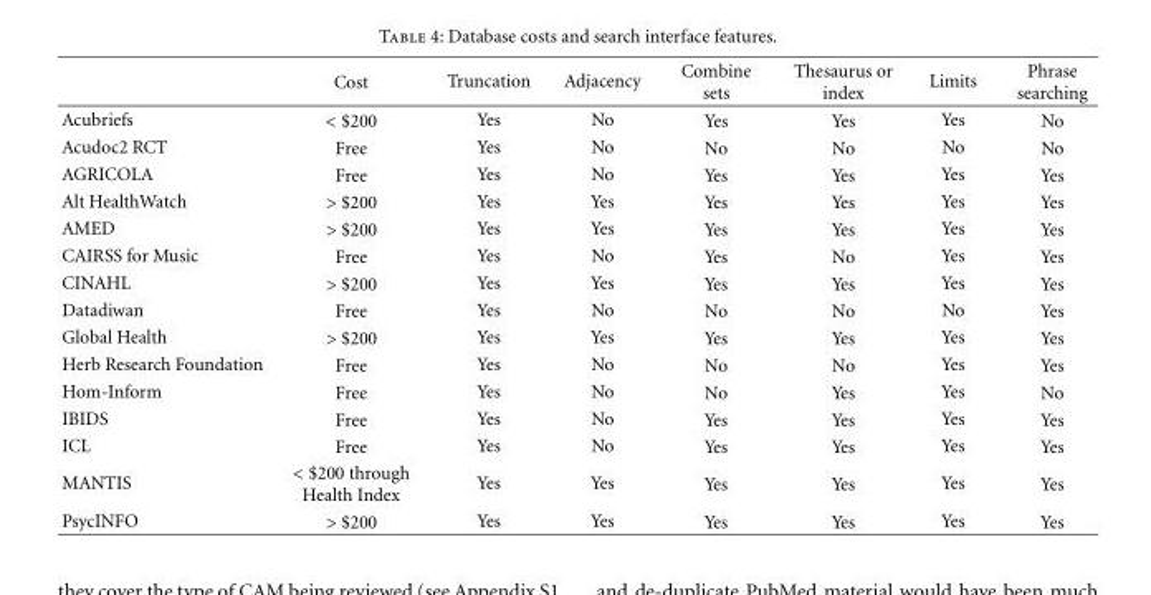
<table><thead><tr><td></td><td>Cost</td><td>Truncation</td><td>Adjacency</td><td>Combine sets</td><td>Thesaurus or index</td><td>Limits</td><td>Phrase searching</td></tr></thead><tbody><tr><td>Acubriefs</td><td>&lt; $200</td><td>Yes</td><td>No</td><td>Yes</td><td>Yes</td><td>Yes</td><td>No</td></tr><tr><td>Acudoc2 RCT</td><td>Free</td><td>Yes</td><td>No</td><td>No</td><td>No</td><td>No</td><td>No</td></tr><tr><td>AGRICOLA</td><td>Free</td><td>Yes</td><td>No</td><td>Yes</td><td>Yes</td><td>Yes</td><td>Yes</td></tr><tr><td>Alt HealthWatch</td><td>&gt; $200</td><td>Yes</td><td>Yes</td><td>Yes</td><td>Yes</td><td>Yes</td><td>Yes</td></tr><tr><td>AMED</td><td>&gt; $200</td><td>Yes</td><td>Yes</td><td>Yes</td><td>Yes</td><td>Yes</td><td>Yes</td></tr><tr><td>CAIRSS for Music</td><td>Free</td><td>Yes</td><td>No</td><td>Yes</td><td>No</td><td>Yes</td><td>Yes</td></tr><tr><td>CINAHL</td><td>&gt; $200</td><td>Yes</td><td>Yes</td><td>Yes</td><td>Yes</td><td>Yes</td><td>Yes</td></tr><tr><td>Datadiwan</td><td>Free</td><td>Yes</td><td>No</td><td>No</td><td>No</td><td>No</td><td>Yes</td></tr><tr><td>Global Health</td><td>&gt; $200</td><td>Yes</td><td>Yes</td><td>Yes</td><td>Yes</td><td>Yes</td><td>Yes</td></tr><tr><td>Herb Research Foundation</td><td>Free</td><td>Yes</td><td>No</td><td>No</td><td>No</td><td>Yes</td><td>Yes</td></tr><tr><td>Hom-Inform</td><td>Free</td><td>Yes</td><td>No</td><td>No</td><td>Yes</td><td>Yes</td><td>No</td></tr><tr><td>IBIDS</td><td>Free</td><td>Yes</td><td>No</td><td>Yes</td><td>Yes</td><td>Yes</td><td>Yes</td></tr><tr><td>ICL</td><td>Free</td><td>Yes</td><td>No</td><td>Yes</td><td>Yes</td><td>Yes</td><td>Yes</td></tr><tr><td>MANTIS</td><td>&lt; $200 through Health Index</td><td>Yes</td><td>Yes</td><td>Yes</td><td>Yes</td><td>Yes</td><td>Yes</td></tr><tr><td>PsycINFO</td><td>&gt; $200</td><td>Yes</td><td>Yes</td><td>Yes</td><td>Yes</td><td>Yes</td><td>Yes</td></tr></tbody></table>